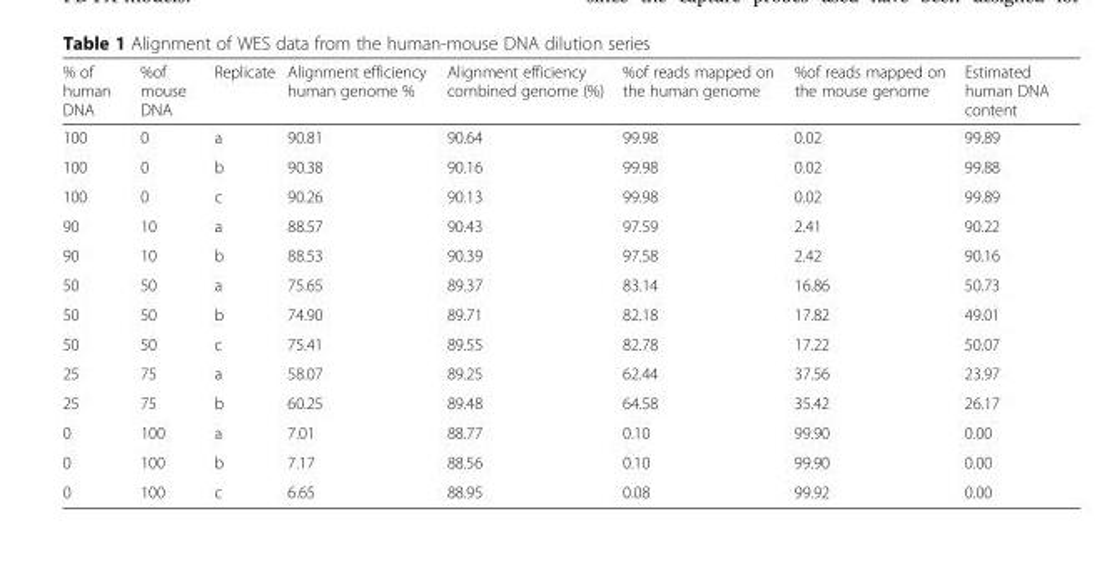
<table><thead><tr><td>% of human DNA</td><td>%of mouse DNA</td><td>Replicate</td><td>Alignment efficiency human genome %</td><td>Alignment efficiency combined genome (%)</td><td>%of reads mapped on the human genome</td><td>%of reads mapped on the mouse genome</td><td>Estimated human DNA content</td></tr></thead><tbody><tr><td>100</td><td>0</td><td>a</td><td>90.81</td><td>90.64</td><td>99.98</td><td>0.02</td><td>99.89</td></tr><tr><td>100</td><td>0</td><td>b</td><td>90.38</td><td>90.16</td><td>99.98</td><td>0.02</td><td>99.88</td></tr><tr><td>100</td><td>0</td><td>c</td><td>90.26</td><td>90.13</td><td>99.98</td><td>0.02</td><td>99.89</td></tr><tr><td>90</td><td>10</td><td>a</td><td>88.57</td><td>90.43</td><td>97.59</td><td>2.41</td><td>90.22</td></tr><tr><td>90</td><td>10</td><td>b</td><td>88.53</td><td>90.39</td><td>97.58</td><td>2.42</td><td>90.16</td></tr><tr><td>50</td><td>50</td><td>a</td><td>75.65</td><td>89.37</td><td>83.14</td><td>16.86</td><td>50.73</td></tr><tr><td>50</td><td>50</td><td>b</td><td>74.90</td><td>89.71</td><td>82.18</td><td>17.82</td><td>49.01</td></tr><tr><td>50</td><td>50</td><td>c</td><td>75.41</td><td>89.55</td><td>82.78</td><td>17.22</td><td>50.07</td></tr><tr><td>25</td><td>75</td><td>a</td><td>58.07</td><td>89.25</td><td>62.44</td><td>37.56</td><td>23.97</td></tr><tr><td>25</td><td>75</td><td>b</td><td>60.25</td><td>89.48</td><td>64.58</td><td>35.42</td><td>26.17</td></tr><tr><td>0</td><td>100</td><td>a</td><td>7.01</td><td>88.77</td><td>0.10</td><td>99.90</td><td>0.00</td></tr><tr><td>0</td><td>100</td><td>b</td><td>7.17</td><td>88.56</td><td>0.10</td><td>99.90</td><td>0.00</td></tr><tr><td>0</td><td>100</td><td>c</td><td>6.65</td><td>88.95</td><td>0.08</td><td>99.92</td><td>0.00</td></tr></tbody></table>